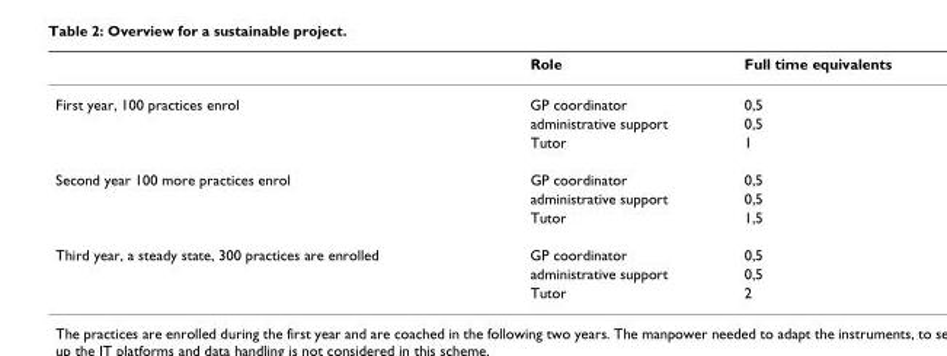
<table><thead><tr><td></td><td>Role</td><td>Full time equivalents</td></tr></thead><tbody><tr><td rowspan="3">First year, 100 practices enrol</td><td>GP coordinator</td><td>0,5</td></tr><tr><td>administrative support</td><td>0,5</td></tr><tr><td>Tutor</td><td>1</td></tr><tr><td rowspan="3">Second year 100 more practices enrol</td><td>GP coordinator</td><td>0,5</td></tr><tr><td>administrative support</td><td>0,5</td></tr><tr><td>Tutor</td><td>1,5</td></tr><tr><td rowspan="3">Third year, a steady state, 300 practices are enrolled</td><td>GP coordinator</td><td>0,5</td></tr><tr><td>administrative support</td><td>0,5</td></tr><tr><td>Tutor</td><td>2</td></tr></tbody></table>